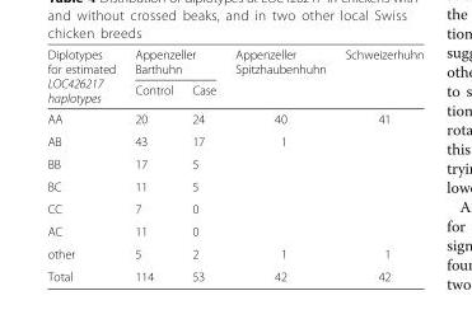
<table><thead><tr><td rowspan="2">Diplotypes for estimated LOC426217 haplotypes</td><td colspan="2">Appenzeller Barthuhn</td><td rowspan="2">Appenzeller Spitzhaubenhuhn</td><td rowspan="2">Schweizerhuhn</td></tr><tr><td>Control</td><td>Case</td></tr></thead><tbody><tr><td>AA</td><td>20</td><td>24</td><td>40</td><td>41</td></tr><tr><td>AB</td><td>43</td><td>17</td><td>1</td><td></td></tr><tr><td>BB</td><td>17</td><td>5</td><td></td><td></td></tr><tr><td>BC</td><td>11</td><td>5</td><td></td><td></td></tr><tr><td>CC</td><td>7</td><td>0</td><td></td><td></td></tr><tr><td>AC</td><td>11</td><td>0</td><td></td><td></td></tr><tr><td>other</td><td>5</td><td>2</td><td>1</td><td>1</td></tr><tr><td>Total</td><td>114</td><td>53</td><td>42</td><td>42</td></tr></tbody></table>